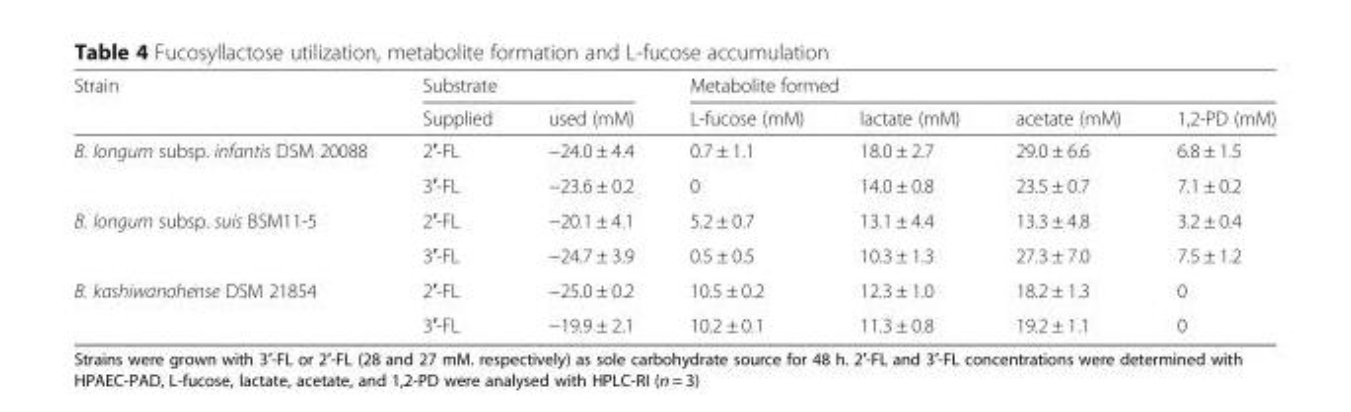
<table><thead><tr><td rowspan="2">Strain</td><td colspan="2">Substrate</td><td colspan="4">Metabolite formed</td></tr><tr><td>Supplied</td><td>used (mM)</td><td>L-fucose (mM)</td><td>lactate (mM)</td><td>acetate (mM)</td><td>1,2-PD (mM)</td></tr></thead><tbody><tr><td rowspan="2">B. longum subsp. infantis DSM 20088</td><td>2′-FL</td><td>−24.0 ± 4.4</td><td>0.7 ± 1.1</td><td>18.0 ± 2.7</td><td>29.0 ± 6.6</td><td>6.8 ± 1.5</td></tr><tr><td>3′-FL</td><td>−23.6 ± 0.2</td><td>0</td><td>14.0 ± 0.8</td><td>23.5 ± 0.7</td><td>7.1 ± 0.2</td></tr><tr><td rowspan="2">B. longum subsp. suis BSM11-5</td><td>2′-FL</td><td>−20.1 ± 4.1</td><td>5.2 ± 0.7</td><td>13.1 ± 4.4</td><td>13.3 ± 4.8</td><td>3.2 ± 0.4</td></tr><tr><td>3′-FL</td><td>−24.7 ± 3.9</td><td>0.5 ± 0.5</td><td>10.3 ± 1.3</td><td>27.3 ± 7.0</td><td>7.5 ± 1.2</td></tr><tr><td rowspan="2">B. kashiwanohense DSM 21854</td><td>2′-FL</td><td>−25.0 ± 0.2</td><td>10.5 ± 0.2</td><td>12.3 ± 1.0</td><td>18.2 ± 1.3</td><td>0</td></tr><tr><td>3′-FL</td><td>−19.9 ± 2.1</td><td>10.2 ± 0.1</td><td>11.3 ± 0.8</td><td>19.2 ± 1.1</td><td>0</td></tr></tbody></table>